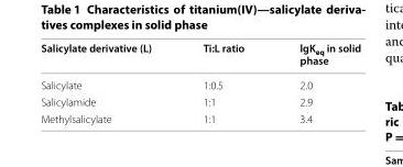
<table><thead><tr><td>Salicylate derivative (L)</td><td>Ti:L ratio</td><td>lgK<sub>eq</sub> in solid phase</td></tr></thead><tbody><tr><td>Salicylate</td><td>1:0.5</td><td>2.0</td></tr><tr><td>Salicylamide</td><td>1:1</td><td>2.9</td></tr><tr><td>Methylsalicylate</td><td>1:1</td><td>3.4</td></tr></tbody></table>